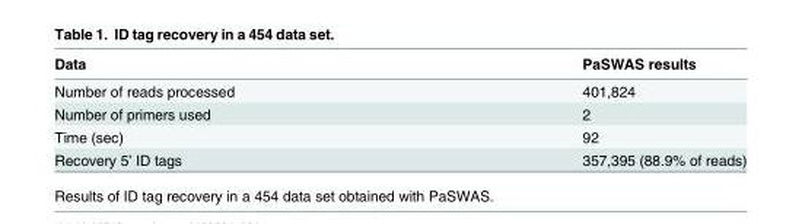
<table><thead><tr><td>Data</td><td>PaSWAS results</td></tr></thead><tbody><tr><td>Number of reads processed</td><td>401,824</td></tr><tr><td>Number of primers used</td><td>2</td></tr><tr><td>Time (sec)</td><td>92</td></tr><tr><td>Recovery 5’ ID tags</td><td>357,395 (88.9% of reads)</td></tr></tbody></table>